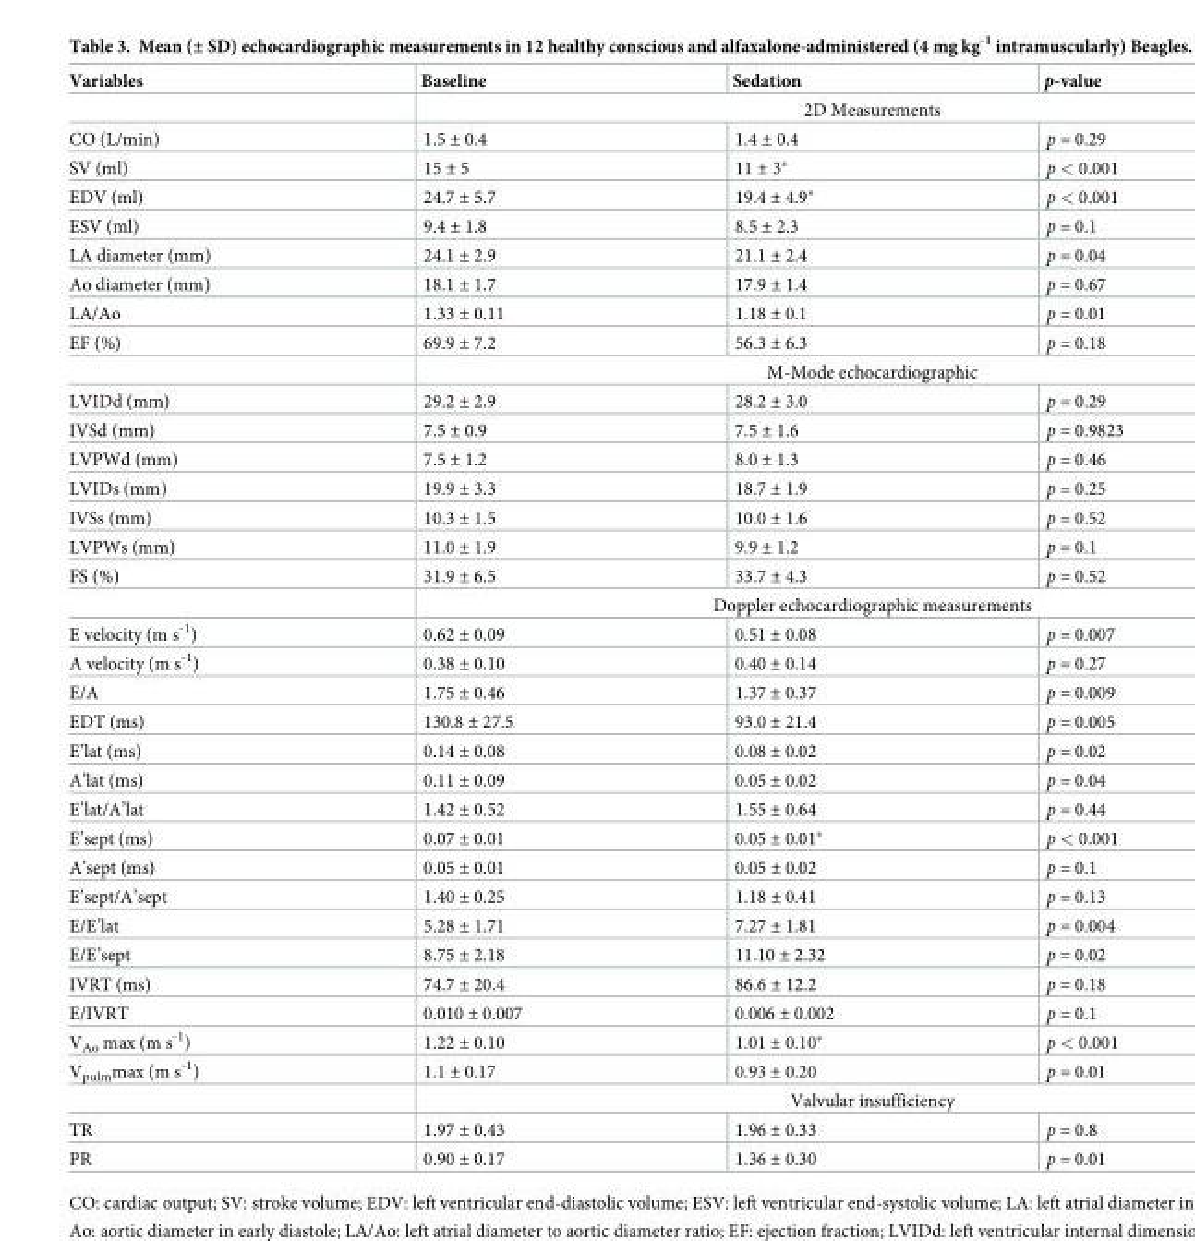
<table><thead><tr><td>Variables</td><td>Baseline</td><td>Sedation</td><td>p-value</td></tr></thead><tbody><tr><td></td><td colspan="3">2D Measurements</td></tr><tr><td>CO (L/min)</td><td>1.5 ± 0.4</td><td>1.4 ± 0.4</td><td>p = 0.29</td></tr><tr><td>SV (ml)</td><td>15 ± 5</td><td>11 ± 3*</td><td>p &lt; 0.001</td></tr><tr><td>EDV (ml)</td><td>24.7 ± 5.7</td><td>19.4 ± 4.9*</td><td>p &lt; 0.001</td></tr><tr><td>ESV (ml)</td><td>9.4 ± 1.8</td><td>8.5 ± 2.3</td><td>p = 0.1</td></tr><tr><td>LA diameter (mm)</td><td>24.1 ± 2.9</td><td>21.1 ± 2.4</td><td>p = 0.04</td></tr><tr><td>Ao diameter (mm)</td><td>18.1 ± 1.7</td><td>17.9 ± 1.4</td><td>p = 0.67</td></tr><tr><td>LA/Ao</td><td>1.33 ± 0.11</td><td>1.18 ± 0.1</td><td>p = 0.01</td></tr><tr><td rowspan="2">EF (%)</td><td>69.9 ± 7.2</td><td>56.3 ± 6.3</td><td>p = 0.18</td></tr><tr><td colspan="3">M-Mode echocardiographic</td></tr><tr><td>LVIDd (mm)</td><td>29.2 ± 2.9</td><td>28.2 ± 3.0</td><td>p = 0.29</td></tr><tr><td>IVSd (mm)</td><td>7.5 ± 0.9</td><td>7.5 ± 1.6</td><td>p = 0.9823</td></tr><tr><td>LVPWd (mm)</td><td>7.5 ± 1.2</td><td>8.0 ± 1.3</td><td>p = 0.46</td></tr><tr><td>LVIDs (mm)</td><td>19.9 ± 3.3</td><td>18.7 ± 1.9</td><td>p = 0.25</td></tr><tr><td>IVSs (mm)</td><td>10.3 ± 1.5</td><td>10.0 ± 1.6</td><td>p = 0.52</td></tr><tr><td>LVPWs (mm)</td><td>11.0 ± 1.9</td><td>9.9 ± 1.2</td><td>p = 0.1</td></tr><tr><td rowspan="2">FS (%)</td><td>31.9 ± 6.5</td><td>33.7 ± 4.3</td><td>p = 0.52</td></tr><tr><td colspan="3">Doppler echocardiographic measurements</td></tr><tr><td>E velocity (m s<sup>-1</sup>)</td><td>0.62 ± 0.09</td><td>0.51 ± 0.08</td><td>p = 0.007</td></tr><tr><td>A velocity (m s<sup>-1</sup>)</td><td>0.38 ± 0.10</td><td>0.40 ± 0.14</td><td>p = 0.27</td></tr><tr><td>E/A</td><td>1.75 ± 0.46</td><td>1.37 ± 0.37</td><td>p = 0.009</td></tr><tr><td>EDT (ms)</td><td>130.8 ± 27.5</td><td>93.0 ± 21.4</td><td>p = 0.005</td></tr><tr><td>E’lat (ms)</td><td>0.14 ± 0.08</td><td>0.08 ± 0.02</td><td>p = 0.02</td></tr><tr><td>A’lat (ms)</td><td>0.11 ± 0.09</td><td>0.05 ± 0.02</td><td>p = 0.04</td></tr><tr><td>E’lat/A’lat</td><td>1.42 ± 0.52</td><td>1.55 ± 0.64</td><td>p = 0.44</td></tr><tr><td>E’sept (ms)</td><td>0.07 ± 0.01</td><td>0.05 ± 0.01*</td><td>p &lt; 0.001</td></tr><tr><td>A’sept (ms)</td><td>0.05 ± 0.01</td><td>0.05 ± 0.02</td><td>p = 0.1</td></tr><tr><td>E’sept/A’sept</td><td>1.40 ± 0.25</td><td>1.18 ± 0.41</td><td>p = 0.13</td></tr><tr><td>E/E’lat</td><td>5.28 ± 1.71</td><td>7.27 ± 1.81</td><td>p = 0.004</td></tr><tr><td>E/E’sept</td><td>8.75 ± 2.18</td><td>11.10 ± 2.32</td><td>p = 0.02</td></tr><tr><td>IVRT (ms)</td><td>74.7 ± 20.4</td><td>86.6 ± 12.2</td><td>p = 0.18</td></tr><tr><td>E/IVRT</td><td>0.010 ± 0.007</td><td>0.006 ± 0.002</td><td>p = 0.1</td></tr><tr><td>V<sub>Ao</sub> max (m s<sup>-1</sup>)</td><td>1.22 ± 0.10</td><td>1.01 ± 0.10*</td><td>p &lt; 0.001</td></tr><tr><td rowspan="2">V<sub>pulm</sub>max (m s<sup>-1</sup>)</td><td>1.1 ± 0.17</td><td>0.93 ± 0.20</td><td>p = 0.01</td></tr><tr><td colspan="3">Valvular insufficiency</td></tr><tr><td>TR</td><td>1.97 ± 0.43</td><td>1.96 ± 0.33</td><td>p = 0.8</td></tr><tr><td>PR</td><td>0.90 ± 0.17</td><td>1.36 ± 0.30</td><td>p = 0.01</td></tr></tbody></table>